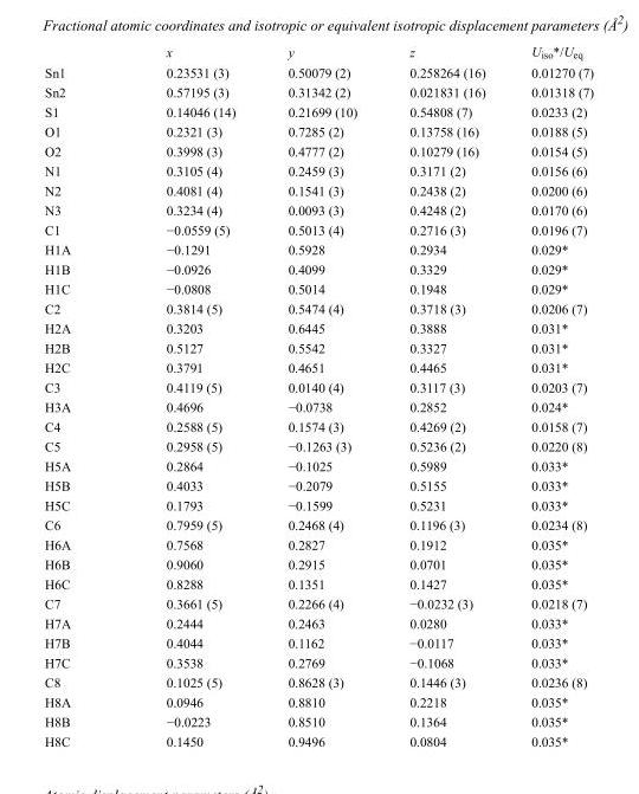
<table><thead><tr><td></td><td>x</td><td>y</td><td>z</td><td>U<sub>iso</sub>*/U<sub>eq</sub></td></tr></thead><tbody><tr><td>Sn1</td><td>0.23531 (3)</td><td>0.50079 (2)</td><td>0.258264 (16)</td><td>0.01270 (7)</td></tr><tr><td>Sn2</td><td>0.57195 (3)</td><td>0.31342 (2)</td><td>0.021831 (16)</td><td>0.01318 (7)</td></tr><tr><td>S1</td><td>0.14046 (14)</td><td>0.21699 (10)</td><td>0.54808 (7)</td><td>0.0233 (2)</td></tr><tr><td>O1</td><td>0.2321 (3)</td><td>0.7285 (2)</td><td>0.13758 (16)</td><td>0.0188 (5)</td></tr><tr><td>O2</td><td>0.3998 (3)</td><td>0.4777 (2)</td><td>0.10279 (16)</td><td>0.0154 (5)</td></tr><tr><td>N1</td><td>0.3105 (4)</td><td>0.2459 (3)</td><td>0.3171 (2)</td><td>0.0156 (6)</td></tr><tr><td>N2</td><td>0.4081 (4)</td><td>0.1541 (3)</td><td>0.2438 (2)</td><td>0.0200 (6)</td></tr><tr><td>N3</td><td>0.3234 (4)</td><td>0.0093 (3)</td><td>0.4248 (2)</td><td>0.0170 (6)</td></tr><tr><td>C1</td><td>−0.0559 (5)</td><td>0.5013 (4)</td><td>0.2716 (3)</td><td>0.0196 (7)</td></tr><tr><td>H1A</td><td>−0.1291</td><td>0.5928</td><td>0.2934</td><td>0.029*</td></tr><tr><td>H1B</td><td>−0.0926</td><td>0.4099</td><td>0.3329</td><td>0.029*</td></tr><tr><td>H1C</td><td>−0.0808</td><td>0.5014</td><td>0.1948</td><td>0.029*</td></tr><tr><td>C2</td><td>0.3814 (5)</td><td>0.5474 (4)</td><td>0.3718 (3)</td><td>0.0206 (7)</td></tr><tr><td>H2A</td><td>0.3203</td><td>0.6445</td><td>0.3888</td><td>0.031*</td></tr><tr><td>H2B</td><td>0.5127</td><td>0.5542</td><td>0.3327</td><td>0.031*</td></tr><tr><td>H2C</td><td>0.3791</td><td>0.4651</td><td>0.4465</td><td>0.031*</td></tr><tr><td>C3</td><td>0.4119 (5)</td><td>0.0140 (4)</td><td>0.3117 (3)</td><td>0.0203 (7)</td></tr><tr><td>H3A</td><td>0.4696</td><td>−0.0738</td><td>0.2852</td><td>0.024*</td></tr><tr><td>C4</td><td>0.2588 (5)</td><td>0.1574 (3)</td><td>0.4269 (2)</td><td>0.0158 (7)</td></tr><tr><td>C5</td><td>0.2958 (5)</td><td>−0.1263 (3)</td><td>0.5236 (2)</td><td>0.0220 (8)</td></tr><tr><td>H5A</td><td>0.2864</td><td>−0.1025</td><td>0.5989</td><td>0.033*</td></tr><tr><td>H5B</td><td>0.4033</td><td>−0.2079</td><td>0.5155</td><td>0.033*</td></tr><tr><td>H5C</td><td>0.1793</td><td>−0.1599</td><td>0.5231</td><td>0.033*</td></tr><tr><td>C6</td><td>0.7959 (5)</td><td>0.2468 (4)</td><td>0.1196 (3)</td><td>0.0234 (8)</td></tr><tr><td>H6A</td><td>0.7568</td><td>0.2827</td><td>0.1912</td><td>0.035*</td></tr><tr><td>H6B</td><td>0.9060</td><td>0.2915</td><td>0.0701</td><td>0.035*</td></tr><tr><td>H6C</td><td>0.8288</td><td>0.1351</td><td>0.1427</td><td>0.035*</td></tr><tr><td>C7</td><td>0.3661 (5)</td><td>0.2266 (4)</td><td>−0.0232 (3)</td><td>0.0218 (7)</td></tr><tr><td>H7A</td><td>0.2444</td><td>0.2463</td><td>0.0280</td><td>0.033*</td></tr><tr><td>H7B</td><td>0.4044</td><td>0.1162</td><td>−0.0117</td><td>0.033*</td></tr><tr><td>H7C</td><td>0.3538</td><td>0.2769</td><td>−0.1068</td><td>0.033*</td></tr><tr><td>C8</td><td>0.1025 (5)</td><td>0.8628 (3)</td><td>0.1446 (3)</td><td>0.0236 (8)</td></tr><tr><td>H8A</td><td>0.0946</td><td>0.8810</td><td>0.2218</td><td>0.035*</td></tr><tr><td>H8B</td><td>−0.0223</td><td>0.8510</td><td>0.1364</td><td>0.035*</td></tr><tr><td>H8C</td><td>0.1450</td><td>0.9496</td><td>0.0804</td><td>0.035*</td></tr></tbody></table>